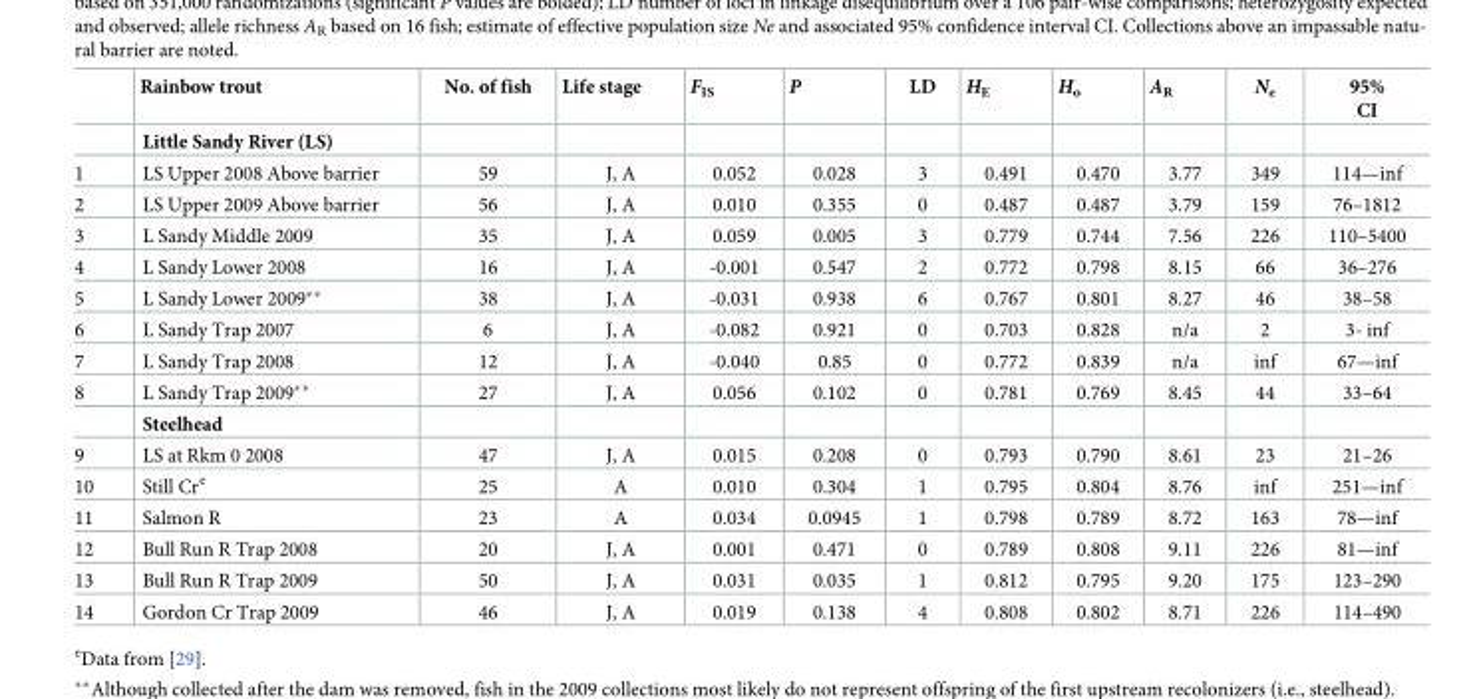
<table><thead><tr><td></td><td>Rainbow trout</td><td>No. of fish</td><td>Life stage</td><td>F<sub>IS</sub></td><td>P</td><td>LD</td><td>H<sub>E</sub></td><td>H<sub>o</sub></td><td>A<sub>R</sub></td><td>N<sub>e</sub></td><td>95% CI</td></tr></thead><tbody><tr><td></td><td>Little Sandy River (LS)</td><td></td><td></td><td></td><td></td><td></td><td></td><td></td><td></td><td></td><td></td></tr><tr><td>1</td><td>LS Upper 2008 Above barrier</td><td>59</td><td>J, A</td><td>0.052</td><td>0.028</td><td>3</td><td>0.491</td><td>0.470</td><td>3.77</td><td>349</td><td>114—inf</td></tr><tr><td>2</td><td>LS Upper 2009 Above barrier</td><td>56</td><td>J, A</td><td>0.010</td><td>0.355</td><td>0</td><td>0.487</td><td>0.487</td><td>3.79</td><td>159</td><td>76–1812</td></tr><tr><td>3</td><td>L Sandy Middle 2009</td><td>35</td><td>J, A</td><td>0.059</td><td>0.005</td><td>3</td><td>0.779</td><td>0.744</td><td>7.56</td><td>226</td><td>110–5400</td></tr><tr><td>4</td><td>L Sandy Lower 2008</td><td>16</td><td>J, A</td><td>-0.001</td><td>0.547</td><td>2</td><td>0.772</td><td>0.798</td><td>8.15</td><td>66</td><td>36–276</td></tr><tr><td>5</td><td>L Sandy Lower 2009**</td><td>38</td><td>J, A</td><td>-0.031</td><td>0.938</td><td>6</td><td>0.767</td><td>0.801</td><td>8.27</td><td>46</td><td>38–58</td></tr><tr><td>6</td><td>L Sandy Trap 2007</td><td>6</td><td>J, A</td><td>-0.082</td><td>0.921</td><td>0</td><td>0.703</td><td>0.828</td><td>n/a</td><td>2</td><td>3- inf</td></tr><tr><td>7</td><td>L Sandy Trap 2008</td><td>12</td><td>J, A</td><td>-0.040</td><td>0.85</td><td>0</td><td>0.772</td><td>0.839</td><td>n/a</td><td>inf</td><td>67—inf</td></tr><tr><td rowspan="2">8</td><td>L Sandy Trap 2009**</td><td>27</td><td>J, A</td><td>0.056</td><td>0.102</td><td>0</td><td>0.781</td><td>0.769</td><td>8.45</td><td>44</td><td>33–64</td></tr><tr><td>Steelhead</td><td></td><td></td><td></td><td></td><td></td><td></td><td></td><td></td><td></td><td></td></tr><tr><td>9</td><td>LS at Rkm 0 2008</td><td>47</td><td>J, A</td><td>0.015</td><td>0.208</td><td>0</td><td>0.793</td><td>0.790</td><td>8.61</td><td>23</td><td>21–26</td></tr><tr><td>10</td><td>Still Cr<sup>e</sup></td><td>25</td><td>A</td><td>0.010</td><td>0.304</td><td>1</td><td>0.795</td><td>0.804</td><td>8.76</td><td>inf</td><td>251—inf</td></tr><tr><td>11</td><td>Salmon R</td><td>23</td><td>A</td><td>0.034</td><td>0.0945</td><td>1</td><td>0.798</td><td>0.789</td><td>8.72</td><td>163</td><td>78—inf</td></tr><tr><td>12</td><td>Bull Run R Trap 2008</td><td>20</td><td>J, A</td><td>0.001</td><td>0.471</td><td>0</td><td>0.789</td><td>0.808</td><td>9.11</td><td>226</td><td>81—inf</td></tr><tr><td>13</td><td>Bull Run R Trap 2009</td><td>50</td><td>J, A</td><td>0.031</td><td>0.035</td><td>1</td><td>0.812</td><td>0.795</td><td>9.20</td><td>175</td><td>123–290</td></tr><tr><td>14</td><td>Gordon Cr Trap 2009</td><td>46</td><td>J, A</td><td>0.019</td><td>0.138</td><td>4</td><td>0.808</td><td>0.802</td><td>8.71</td><td>226</td><td>114–490</td></tr></tbody></table>